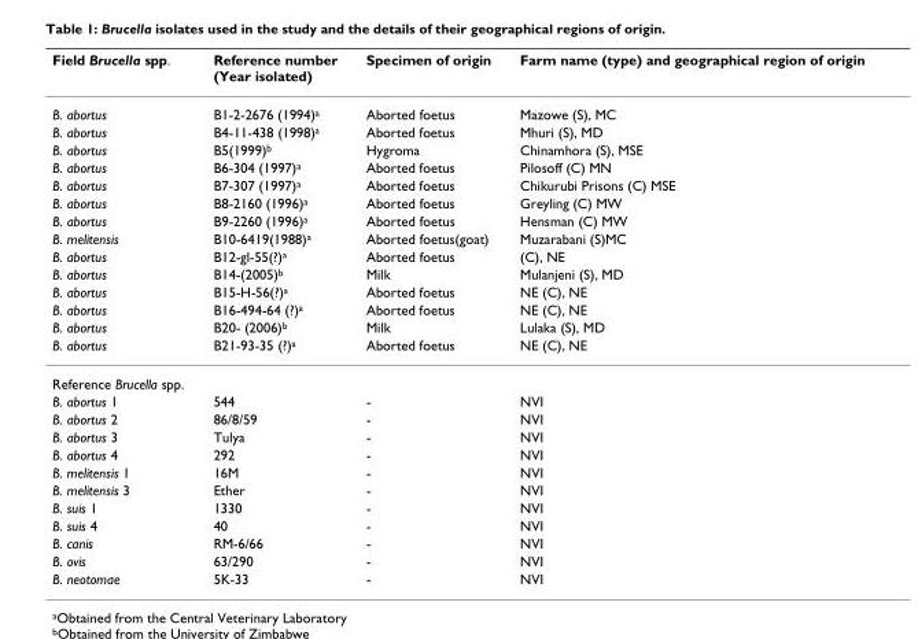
<table><thead><tr><td>Field Brucella spp.</td><td>Reference number (Year isolated)</td><td>Specimen of origin</td><td>Farm name (type) and geographical region of origin</td></tr></thead><tbody><tr><td>B. abortus</td><td>B1-2-2676 (1994)<sup>a</sup></td><td>Aborted foetus</td><td>Mazowe (S), MC</td></tr><tr><td>B. abortus</td><td>B4-11-438 (1998)<sup>a</sup></td><td>Aborted foetus</td><td>Mhuri (S), MD</td></tr><tr><td>B. abortus</td><td>B5(1999)<sup>b</sup></td><td>Hygroma</td><td>Chinamhora (S), MSE</td></tr><tr><td>B. abortus</td><td>B6-304 (1997)<sup>a</sup></td><td>Aborted foetus</td><td>Pilosoff (C) MN</td></tr><tr><td>B. abortus</td><td>B7-307 (1997)<sup>a</sup></td><td>Aborted foetus</td><td>Chikurubi Prisons (C) MSE</td></tr><tr><td>B. abortus</td><td>B8-2160 (1996)<sup>a</sup></td><td>Aborted foetus</td><td>Greyling (C) MW</td></tr><tr><td>B. abortus</td><td>B9-2260 (1996)<sup>a</sup></td><td>Aborted foetus</td><td>Hensman (C) MW</td></tr><tr><td>B. melitensis</td><td>B10-6419(1988)<sup>a</sup></td><td>Aborted foetus(goat)</td><td>Muzarabani (S)MC</td></tr><tr><td>B. abortus</td><td>B12-gl-55(?)<sup>a</sup></td><td>Aborted foetus</td><td>(C), NE</td></tr><tr><td>B. abortus</td><td>B14-(2005)<sup>b</sup></td><td>Milk</td><td>Mulanjeni (S), MD</td></tr><tr><td>B. abortus</td><td>B15-H-56(?)<sup>a</sup></td><td>Aborted foetus</td><td>NE (C), NE</td></tr><tr><td>B. abortus</td><td>B16-494-64 (?)<sup>a</sup></td><td>Aborted foetus</td><td>NE (C), NE</td></tr><tr><td>B. abortus</td><td>B20- (2006)<sup>b</sup></td><td>Milk</td><td>Lulaka (S), MD</td></tr><tr><td>B. abortus</td><td>B21-93-35 (?)<sup>a</sup></td><td>Aborted foetus</td><td>NE (C), NE</td></tr><tr><td colspan="4">Reference Brucella spp.</td></tr><tr><td>B. abortus 1</td><td>544</td><td>-</td><td>NVI</td></tr><tr><td>B. abortus 2</td><td>86/8/59</td><td>-</td><td>NVI</td></tr><tr><td>B. abortus 3</td><td>Tulya</td><td>-</td><td>NVI</td></tr><tr><td>B. abortus 4</td><td>292</td><td>-</td><td>NVI</td></tr><tr><td>B. melitensis 1</td><td>16M</td><td>-</td><td>NVI</td></tr><tr><td>B. melitensis 3</td><td>Ether</td><td>-</td><td>NVI</td></tr><tr><td>B. suis 1</td><td>1330</td><td>-</td><td>NVI</td></tr><tr><td>B. suis 4</td><td>40</td><td>-</td><td>NVI</td></tr><tr><td>B. canis</td><td>RM-6/66</td><td>-</td><td>NVI</td></tr><tr><td>B. ovis</td><td>63/290</td><td>-</td><td>NVI</td></tr><tr><td>B. neotomae</td><td>5K-33</td><td>-</td><td>NVI</td></tr></tbody></table>